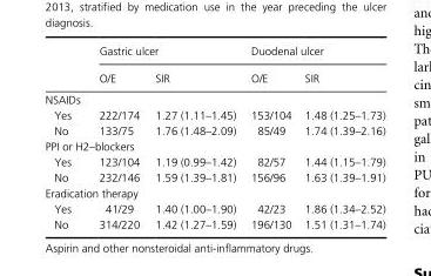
<table><thead><tr><td rowspan="2"></td><td colspan="2">Gastric ulcer</td><td colspan="2">Duodenal ulcer</td></tr><tr><td>O/E</td><td>SIR</td><td>O/E</td><td>SIR</td></tr></thead><tbody><tr><td colspan="5">NSAIDs</td></tr><tr><td>Yes</td><td>222/174</td><td>1.27 (1.11–1.45)</td><td>153/104</td><td>1.48 (1.25–1.73)</td></tr><tr><td>No</td><td>133/75</td><td>1.76 (1.48–2.09)</td><td>85/49</td><td>1.74 (1.39–2.16)</td></tr><tr><td colspan="5">PPI or H2–blockers</td></tr><tr><td>Yes</td><td>123/104</td><td>1.19 (0.99–1.42)</td><td>82/57</td><td>1.44 (1.15–1.79)</td></tr><tr><td>No</td><td>232/146</td><td>1.59 (1.39–1.81)</td><td>156/96</td><td>1.63 (1.39–1.91)</td></tr><tr><td colspan="5">Eradication therapy</td></tr><tr><td>Yes</td><td>41/29</td><td>1.40 (1.00–1.90)</td><td>42/23</td><td>1.86 (1.34–2.52)</td></tr><tr><td>No</td><td>314/220</td><td>1.42 (1.27–1.59)</td><td>196/130</td><td>1.51 (1.31–1.74)</td></tr></tbody></table>